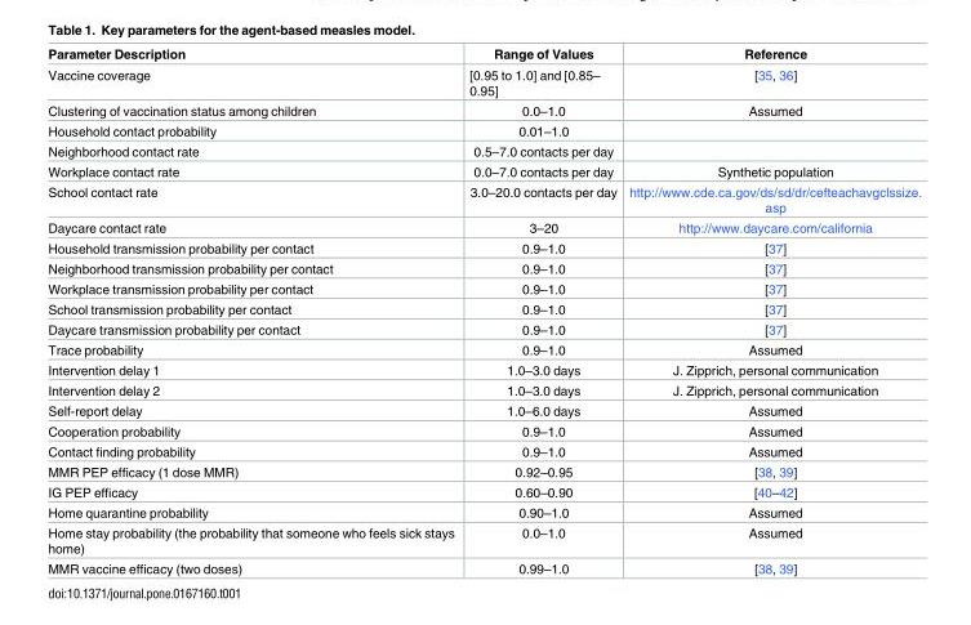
<table><thead><tr><td>Parameter Description</td><td>Range of Values</td><td>Reference</td></tr></thead><tbody><tr><td>Vaccine coverage</td><td>[0.95 to 1.0] and [0.85– 0.95]</td><td>[35, 36]</td></tr><tr><td>Clustering of vaccination status among children</td><td>0.0–1.0</td><td>Assumed</td></tr><tr><td>Household contact probability</td><td>0.01–1.0</td><td></td></tr><tr><td>Neighborhood contact rate</td><td>0.5–7.0 contacts per day</td><td></td></tr><tr><td>Workplace contact rate</td><td>0.0–7.0 contacts per day</td><td>Synthetic population</td></tr><tr><td>School contact rate</td><td>3.0–20.0 contacts per day</td><td>http://www.cde.ca.gov/ds/sd/dr/cefteachavgclssize. asp</td></tr><tr><td>Daycare contact rate</td><td>3–20</td><td>http://www.daycare.com/california</td></tr><tr><td>Household transmission probability per contact</td><td>0.9–1.0</td><td>[37]</td></tr><tr><td>Neighborhood transmission probability per contact</td><td>0.9–1.0</td><td>[37]</td></tr><tr><td>Workplace transmission probability per contact</td><td>0.9–1.0</td><td>[37]</td></tr><tr><td>School transmission probability per contact</td><td>0.9–1.0</td><td>[37]</td></tr><tr><td>Daycare transmission probability per contact</td><td>0.9–1.0</td><td>[37]</td></tr><tr><td>Trace probability</td><td>0.9–1.0</td><td>Assumed</td></tr><tr><td>Intervention delay 1</td><td>1.0–3.0 days</td><td>J. Zipprich, personal communication</td></tr><tr><td>Intervention delay 2</td><td>1.0–3.0 days</td><td>J. Zipprich, personal communication</td></tr><tr><td>Self-report delay</td><td>1.0–6.0 days</td><td>Assumed</td></tr><tr><td>Cooperation probability</td><td>0.9–1.0</td><td>Assumed</td></tr><tr><td>Contact finding probability</td><td>0.9–1.0</td><td>Assumed</td></tr><tr><td>MMR PEP efficacy (1 dose MMR)</td><td>0.92–0.95</td><td>[38, 39]</td></tr><tr><td>IG PEP efficacy</td><td>0.60–0.90</td><td>[40–42]</td></tr><tr><td>Home quarantine probability</td><td>0.90–1.0</td><td>Assumed</td></tr><tr><td>Home stay probability (the probability that someone who feels sick stays home)</td><td>0.0–1.0</td><td>Assumed</td></tr><tr><td>MMR vaccine efficacy (two doses)</td><td>0.99–1.0</td><td>[38, 39]</td></tr></tbody></table>